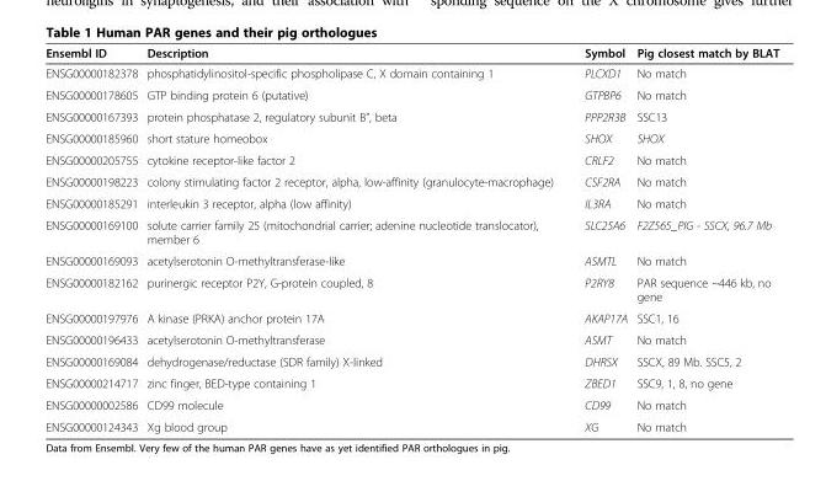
<table><thead><tr><td>Ensembl ID</td><td>Description</td><td>Symbol</td><td>Pig closest match by BLAT</td></tr></thead><tbody><tr><td>ENSG00000182378</td><td>phosphatidylinositol-specific phospholipase C, X domain containing 1</td><td>PLCXD1</td><td>No match</td></tr><tr><td>ENSG00000178605</td><td>GTP binding protein 6 (putative)</td><td>GTPBP6</td><td>No match</td></tr><tr><td>ENSG00000167393</td><td>protein phosphatase 2, regulatory subunit B”, beta</td><td>PPP2R3B</td><td>SSC13</td></tr><tr><td>ENSG00000185960</td><td>short stature homeobox</td><td>SHOX</td><td>SHOX</td></tr><tr><td>ENSG00000205755</td><td>cytokine receptor-like factor 2</td><td>CRLF2</td><td>No match</td></tr><tr><td>ENSG00000198223</td><td>colony stimulating factor 2 receptor, alpha, low-affinity (granulocyte-macrophage)</td><td>CSF2RA</td><td>No match</td></tr><tr><td>ENSG00000185291</td><td>interleukin 3 receptor, alpha (low affinity)</td><td>IL3RA</td><td>No match</td></tr><tr><td>ENSG00000169100</td><td>solute carrier family 25 (mitochondrial carrier; adenine nucleotide translocator), member 6</td><td>SLC25A6</td><td>F2Z565_PIG - SSCX, 96.7 Mb</td></tr><tr><td>ENSG00000169093</td><td>acetylserotonin O-methyltransferase-like</td><td>ASMTL</td><td>No match</td></tr><tr><td>ENSG00000182162</td><td>purinergic receptor P2Y, G-protein coupled, 8</td><td>P2RY8</td><td>PAR sequence ~446 kb, no gene</td></tr><tr><td>ENSG00000197976</td><td>A kinase (PRKA) anchor protein 17A</td><td>AKAP17A</td><td>SSC1, 16</td></tr><tr><td>ENSG00000196433</td><td>acetylserotonin O-methyltransferase</td><td>ASMT</td><td>No match</td></tr><tr><td>ENSG00000169084</td><td>dehydrogenase/reductase (SDR family) X-linked</td><td>DHRSX</td><td>SSCX, 89 Mb. SSC5, 2</td></tr><tr><td>ENSG00000214717</td><td>zinc finger, BED-type containing 1</td><td>ZBED1</td><td>SSC9, 1, 8, no gene</td></tr><tr><td>ENSG00000002586</td><td>CD99 molecule</td><td>CD99</td><td>No match</td></tr><tr><td>ENSG00000124343</td><td>Xg blood group</td><td>XG</td><td>No match</td></tr></tbody></table>